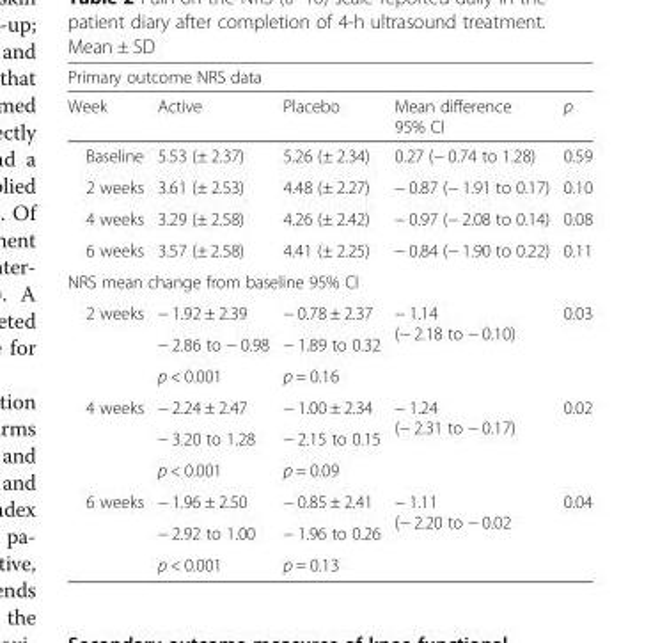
<table><thead><tr><td colspan="5">Primary outcome NRS data</td></tr><tr><td>Week</td><td>Active</td><td>Placebo</td><td>Mean difference 95% CI</td><td>p</td></tr></thead><tbody><tr><td>Baseline</td><td>5.53 (± 2.37)</td><td>5.26 (± 2.34)</td><td>0.27 (− 0.74 to 1.28)</td><td>0.59</td></tr><tr><td>2 weeks</td><td>3.61 (± 2.53)</td><td>4.48 (± 2.27)</td><td>− 0.87 (− 1.91 to 0.17)</td><td>0.10</td></tr><tr><td>4 weeks</td><td>3.29 (± 2.58)</td><td>4.26 (± 2.42)</td><td>− 0.97 (− 2.08 to 0.14)</td><td>0.08</td></tr><tr><td>6 weeks</td><td>3.57 (± 2.58)</td><td>4.41 (± 2.25)</td><td>− 0.84 (− 1.90 to 0.22)</td><td>0.11</td></tr><tr><td colspan="5">NRS mean change from baseline 95% CI</td></tr><tr><td rowspan="3">2 weeks</td><td>− 1.92 ± 2.39</td><td>− 0.78 ± 2.37</td><td rowspan="3">− 1.14 (− 2.18 to − 0.10)</td><td rowspan="3">0.03</td></tr><tr><td>− 2.86 to − 0.98</td><td>− 1.89 to 0.32</td></tr><tr><td>p &lt; 0.001</td><td>p = 0.16</td></tr><tr><td rowspan="3">4 weeks</td><td>− 2.24 ± 2.47</td><td>− 1.00 ± 2.34</td><td rowspan="3">− 1.24 (− 2.31 to − 0.17)</td><td rowspan="3">0.02</td></tr><tr><td>− 3.20 to 1.28</td><td>− 2.15 to 0.15</td></tr><tr><td>p &lt; 0.001</td><td>p = 0.09</td></tr><tr><td rowspan="3">6 weeks</td><td>− 1.96 ± 2.50</td><td>− 0.85 ± 2.41</td><td rowspan="3">− 1.11 (− 2.20 to − 0.02</td><td rowspan="3">0.04</td></tr><tr><td>− 2.92 to 1.00</td><td>− 1.96 to 0.26</td></tr><tr><td>p &lt; 0.001</td><td>p = 0.13</td></tr></tbody></table>